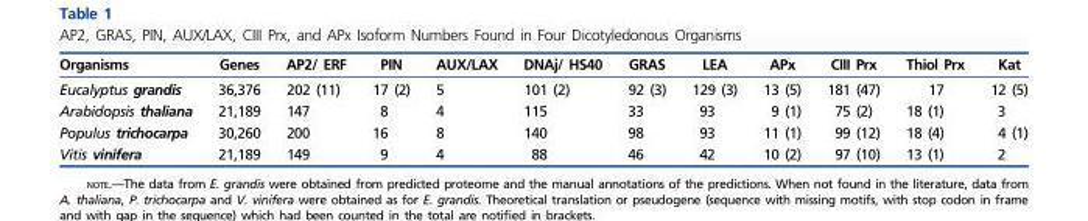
<table><thead><tr><td>Organisms</td><td>Genes</td><td>AP2/ ERF</td><td>PIN</td><td>AUX/LAX</td><td>DNAj/ HS40</td><td>GRAS</td><td>LEA</td><td>APx</td><td>CIII Prx</td><td>Thiol Prx</td><td>Kat</td></tr></thead><tbody><tr><td>Eucalyptus grandis</td><td>36,376</td><td>202 (11)</td><td>17 (2)</td><td>5</td><td>101 (2)</td><td>92 (3)</td><td>129 (3)</td><td>13 (5)</td><td>181 (47)</td><td>17</td><td>12 (5)</td></tr><tr><td>Arabidopsis thaliana</td><td>21,189</td><td>147</td><td>8</td><td>4</td><td>115</td><td>33</td><td>93</td><td>9 (1)</td><td>75 (2)</td><td>18 (1)</td><td>3</td></tr><tr><td>Populus trichocarpa</td><td>30,260</td><td>200</td><td>16</td><td>8</td><td>140</td><td>98</td><td>93</td><td>11 (1)</td><td>99 (12)</td><td>18 (4)</td><td>4 (1)</td></tr><tr><td>Vitis vinifera</td><td>21,189</td><td>149</td><td>9</td><td>4</td><td>88</td><td>46</td><td>42</td><td>10 (2)</td><td>97 (10)</td><td>13 (1)</td><td>2</td></tr></tbody></table>